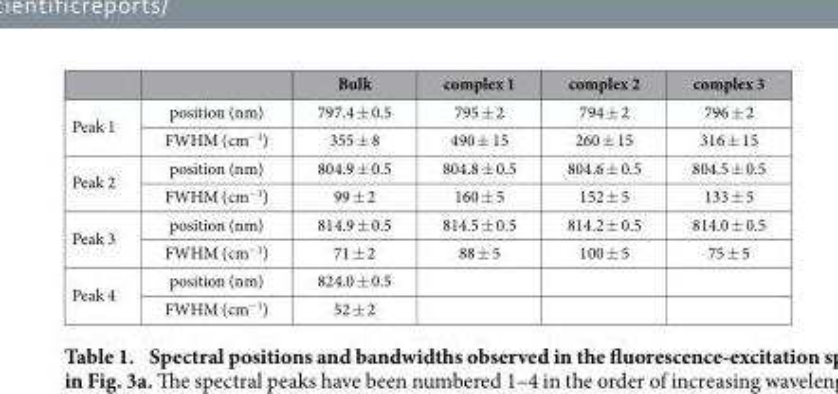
<table><thead><tr><td></td><td></td><td>Bulk</td><td>complex 1</td><td>complex 2</td><td>complex 3</td></tr></thead><tbody><tr><td rowspan="2">Peak 1</td><td>position (nm)</td><td>797.4 ± 0.5</td><td>795 ± 2</td><td>794 ± 2</td><td>796 ± 2</td></tr><tr><td>FWHM (cm<sup>−1</sup>)</td><td>355 ± 8</td><td>490 ± 15</td><td>260 ± 15</td><td>316 ± 15</td></tr><tr><td rowspan="2">Peak 2</td><td>position (nm)</td><td>804.9 ± 0.5</td><td>804.8 ± 0.5</td><td>804.6 ± 0.5</td><td>804.5 ± 0.5</td></tr><tr><td>FWHM (cm<sup>−1</sup>)</td><td>99 ± 2</td><td>160 ± 5</td><td>152 ± 5</td><td>133 ± 5</td></tr><tr><td rowspan="2">Peak 3</td><td>position (nm)</td><td>814.9 ± 0.5</td><td>814.5 ± 0.5</td><td>814.2 ± 0.5</td><td>814.0 ± 0.5</td></tr><tr><td>FWHM (cm<sup>−1</sup>)</td><td>71 ± 2</td><td>88 ± 5</td><td>100 ± 5</td><td>75 ± 5</td></tr><tr><td rowspan="2">Peak 4</td><td>position (nm)</td><td>824.0 ± 0.5</td><td></td><td></td><td></td></tr><tr><td>FWHM (cm<sup>−1</sup>)</td><td>52 ± 2</td><td></td><td></td><td></td></tr></tbody></table>